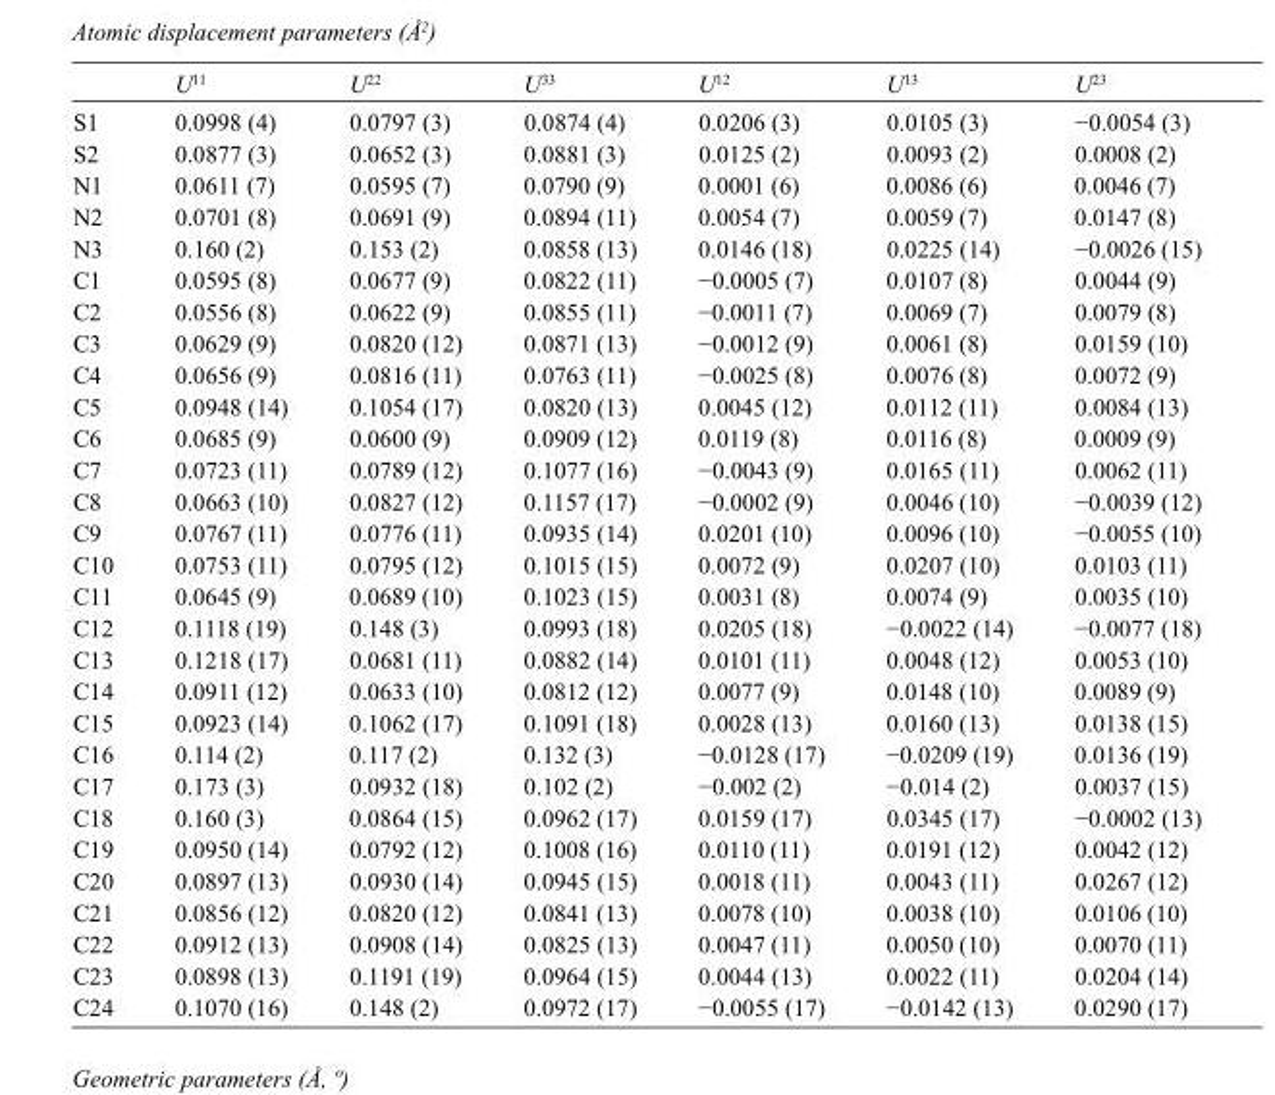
<table><thead><tr><td></td><td>U<sup>11</sup></td><td>U<sup>22</sup></td><td>U<sup>33</sup></td><td>U<sup>12</sup></td><td>U<sup>13</sup></td><td>U<sup>23</sup></td></tr></thead><tbody><tr><td>S1</td><td>0.0998 (4)</td><td>0.0797 (3)</td><td>0.0874 (4)</td><td>0.0206 (3)</td><td>0.0105 (3)</td><td>−0.0054 (3)</td></tr><tr><td>S2</td><td>0.0877 (3)</td><td>0.0652 (3)</td><td>0.0881 (3)</td><td>0.0125 (2)</td><td>0.0093 (2)</td><td>0.0008 (2)</td></tr><tr><td>N1</td><td>0.0611 (7)</td><td>0.0595 (7)</td><td>0.0790 (9)</td><td>0.0001 (6)</td><td>0.0086 (6)</td><td>0.0046 (7)</td></tr><tr><td>N2</td><td>0.0701 (8)</td><td>0.0691 (9)</td><td>0.0894 (11)</td><td>0.0054 (7)</td><td>0.0059 (7)</td><td>0.0147 (8)</td></tr><tr><td>N3</td><td>0.160 (2)</td><td>0.153 (2)</td><td>0.0858 (13)</td><td>0.0146 (18)</td><td>0.0225 (14)</td><td>−0.0026 (15)</td></tr><tr><td>C1</td><td>0.0595 (8)</td><td>0.0677 (9)</td><td>0.0822 (11)</td><td>−0.0005 (7)</td><td>0.0107 (8)</td><td>0.0044 (9)</td></tr><tr><td>C2</td><td>0.0556 (8)</td><td>0.0622 (9)</td><td>0.0855 (11)</td><td>−0.0011 (7)</td><td>0.0069 (7)</td><td>0.0079 (8)</td></tr><tr><td>C3</td><td>0.0629 (9)</td><td>0.0820 (12)</td><td>0.0871 (13)</td><td>−0.0012 (9)</td><td>0.0061 (8)</td><td>0.0159 (10)</td></tr><tr><td>C4</td><td>0.0656 (9)</td><td>0.0816 (11)</td><td>0.0763 (11)</td><td>−0.0025 (8)</td><td>0.0076 (8)</td><td>0.0072 (9)</td></tr><tr><td>C5</td><td>0.0948 (14)</td><td>0.1054 (17)</td><td>0.0820 (13)</td><td>0.0045 (12)</td><td>0.0112 (11)</td><td>0.0084 (13)</td></tr><tr><td>C6</td><td>0.0685 (9)</td><td>0.0600 (9)</td><td>0.0909 (12)</td><td>0.0119 (8)</td><td>0.0116 (8)</td><td>0.0009 (9)</td></tr><tr><td>C7</td><td>0.0723 (11)</td><td>0.0789 (12)</td><td>0.1077 (16)</td><td>−0.0043 (9)</td><td>0.0165 (11)</td><td>0.0062 (11)</td></tr><tr><td>C8</td><td>0.0663 (10)</td><td>0.0827 (12)</td><td>0.1157 (17)</td><td>−0.0002 (9)</td><td>0.0046 (10)</td><td>−0.0039 (12)</td></tr><tr><td>C9</td><td>0.0767 (11)</td><td>0.0776 (11)</td><td>0.0935 (14)</td><td>0.0201 (10)</td><td>0.0096 (10)</td><td>−0.0055 (10)</td></tr><tr><td>C10</td><td>0.0753 (11)</td><td>0.0795 (12)</td><td>0.1015 (15)</td><td>0.0072 (9)</td><td>0.0207 (10)</td><td>0.0103 (11)</td></tr><tr><td>C11</td><td>0.0645 (9)</td><td>0.0689 (10)</td><td>0.1023 (15)</td><td>0.0031 (8)</td><td>0.0074 (9)</td><td>0.0035 (10)</td></tr><tr><td>C12</td><td>0.1118 (19)</td><td>0.148 (3)</td><td>0.0993 (18)</td><td>0.0205 (18)</td><td>−0.0022 (14)</td><td>−0.0077 (18)</td></tr><tr><td>C13</td><td>0.1218 (17)</td><td>0.0681 (11)</td><td>0.0882 (14)</td><td>0.0101 (11)</td><td>0.0048 (12)</td><td>0.0053 (10)</td></tr><tr><td>C14</td><td>0.0911 (12)</td><td>0.0633 (10)</td><td>0.0812 (12)</td><td>0.0077 (9)</td><td>0.0148 (10)</td><td>0.0089 (9)</td></tr><tr><td>C15</td><td>0.0923 (14)</td><td>0.1062 (17)</td><td>0.1091 (18)</td><td>0.0028 (13)</td><td>0.0160 (13)</td><td>0.0138 (15)</td></tr><tr><td>C16</td><td>0.114 (2)</td><td>0.117 (2)</td><td>0.132 (3)</td><td>−0.0128 (17)</td><td>−0.0209 (19)</td><td>0.0136 (19)</td></tr><tr><td>C17</td><td>0.173 (3)</td><td>0.0932 (18)</td><td>0.102 (2)</td><td>−0.002 (2)</td><td>−0.014 (2)</td><td>0.0037 (15)</td></tr><tr><td>C18</td><td>0.160 (3)</td><td>0.0864 (15)</td><td>0.0962 (17)</td><td>0.0159 (17)</td><td>0.0345 (17)</td><td>−0.0002 (13)</td></tr><tr><td>C19</td><td>0.0950 (14)</td><td>0.0792 (12)</td><td>0.1008 (16)</td><td>0.0110 (11)</td><td>0.0191 (12)</td><td>0.0042 (12)</td></tr><tr><td>C20</td><td>0.0897 (13)</td><td>0.0930 (14)</td><td>0.0945 (15)</td><td>0.0018 (11)</td><td>0.0043 (11)</td><td>0.0267 (12)</td></tr><tr><td>C21</td><td>0.0856 (12)</td><td>0.0820 (12)</td><td>0.0841 (13)</td><td>0.0078 (10)</td><td>0.0038 (10)</td><td>0.0106 (10)</td></tr><tr><td>C22</td><td>0.0912 (13)</td><td>0.0908 (14)</td><td>0.0825 (13)</td><td>0.0047 (11)</td><td>0.0050 (10)</td><td>0.0070 (11)</td></tr><tr><td>C23</td><td>0.0898 (13)</td><td>0.1191 (19)</td><td>0.0964 (15)</td><td>0.0044 (13)</td><td>0.0022 (11)</td><td>0.0204 (14)</td></tr><tr><td>C24</td><td>0.1070 (16)</td><td>0.148 (2)</td><td>0.0972 (17)</td><td>−0.0055 (17)</td><td>−0.0142 (13)</td><td>0.0290 (17)</td></tr></tbody></table>